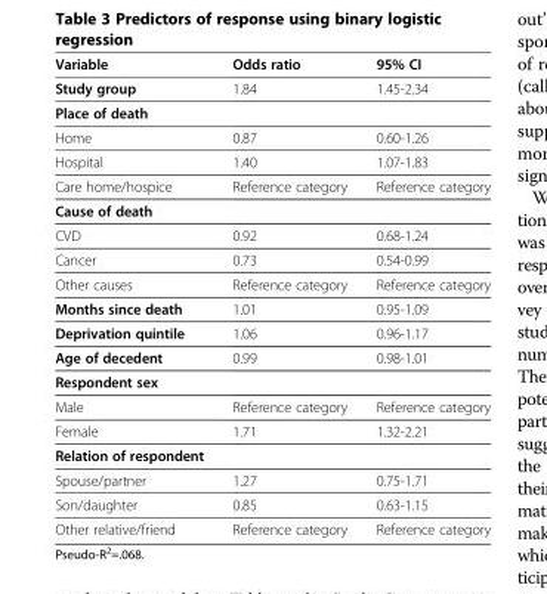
<table><thead><tr><td>Variable</td><td>Odds ratio</td><td>95% CI</td></tr></thead><tbody><tr><td>Study group</td><td>1.84</td><td>1.45-2.34</td></tr><tr><td colspan="3">Place of death</td></tr><tr><td>Home</td><td>0.87</td><td>0.60-1.26</td></tr><tr><td>Hospital</td><td>1.40</td><td>1.07-1.83</td></tr><tr><td>Care home/hospice</td><td>Reference category</td><td>Reference category</td></tr><tr><td colspan="3">Cause of death</td></tr><tr><td>CVD</td><td>0.92</td><td>0.68-1.24</td></tr><tr><td>Cancer</td><td>0.73</td><td>0.54-0.99</td></tr><tr><td>Other causes</td><td>Reference category</td><td>Reference category</td></tr><tr><td>Months since death</td><td>1.01</td><td>0.95-1.09</td></tr><tr><td>Deprivation quintile</td><td>1.06</td><td>0.96-1.17</td></tr><tr><td>Age of decedent</td><td>0.99</td><td>0.98-1.01</td></tr><tr><td colspan="3">Respondent sex</td></tr><tr><td>Male</td><td>Reference category</td><td>Reference category</td></tr><tr><td>Female</td><td>1.71</td><td>1.32-2.21</td></tr><tr><td colspan="3">Relation of respondent</td></tr><tr><td>Spouse/partner</td><td>1.27</td><td>0.75-1.71</td></tr><tr><td>Son/daughter</td><td>0.85</td><td>0.63-1.15</td></tr><tr><td>Other relative/friend</td><td>Reference category</td><td>Reference category</td></tr></tbody></table>